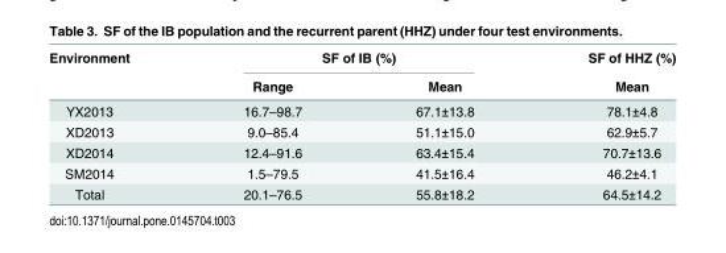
<table><thead><tr><td rowspan="2">Environment</td><td colspan="2">SF of IB (%)</td><td rowspan="2">SF of HHZ (%) Mean</td></tr><tr><td>Range</td><td>Mean</td></tr></thead><tbody><tr><td>YX2013</td><td>16.7–98.7</td><td>67.1±13.8</td><td>78.1±4.8</td></tr><tr><td>XD2013</td><td>9.0–85.4</td><td>51.1±15.0</td><td>62.9±5.7</td></tr><tr><td>XD2014</td><td>12.4–91.6</td><td>63.4±15.4</td><td>70.7±13.6</td></tr><tr><td>SM2014</td><td>1.5–79.5</td><td>41.5±16.4</td><td>46.2±4.1</td></tr><tr><td>Total</td><td>20.1–76.5</td><td>55.8±18.2</td><td>64.5±14.2</td></tr></tbody></table>